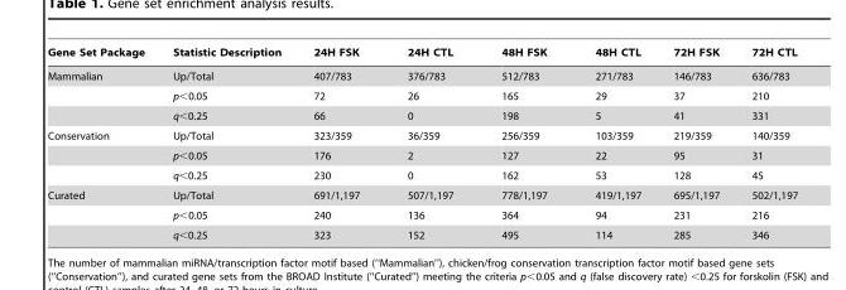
<table><thead><tr><td>Gene Set Package</td><td>Statistic Description</td><td>24H FSK</td><td>24H CTL</td><td>48H FSK</td><td>48H CTL</td><td>72H FSK</td><td>72H CTL</td></tr></thead><tbody><tr><td rowspan="3">Mammalian</td><td>Up/Total</td><td>407/783</td><td>376/783</td><td>512/783</td><td>271/783</td><td>146/783</td><td>636/783</td></tr><tr><td>p&lt;0.05</td><td>72</td><td>26</td><td>165</td><td>29</td><td>37</td><td>210</td></tr><tr><td>q&lt;0.25</td><td>66</td><td>0</td><td>198</td><td>5</td><td>41</td><td>331</td></tr><tr><td rowspan="3">Conservation</td><td>Up/Total</td><td>323/359</td><td>36/359</td><td>256/359</td><td>103/359</td><td>219/359</td><td>140/359</td></tr><tr><td>p&lt;0.05</td><td>176</td><td>2</td><td>127</td><td>22</td><td>95</td><td>31</td></tr><tr><td>q&lt;0.25</td><td>230</td><td>0</td><td>162</td><td>53</td><td>128</td><td>45</td></tr><tr><td rowspan="3">Curated</td><td>Up/Total</td><td>691/1,197</td><td>507/1,197</td><td>778/1,197</td><td>419/1,197</td><td>695/1,197</td><td>502/1,197</td></tr><tr><td>p&lt;0.05</td><td>240</td><td>136</td><td>364</td><td>94</td><td>231</td><td>216</td></tr><tr><td>q&lt;0.25</td><td>323</td><td>152</td><td>495</td><td>114</td><td>285</td><td>346</td></tr></tbody></table>